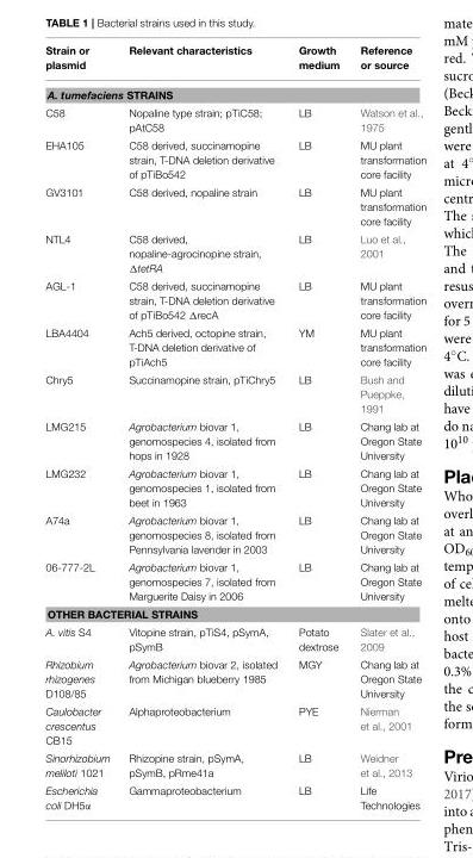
<table><thead><tr><td>Strain or plasmid</td><td>Relevant characteristics</td><td>Growth medium</td><td>Reference or source</td></tr></thead><tbody><tr><td colspan="4">A. tumefaciens STRAINS</td></tr><tr><td>C58</td><td>Nopaline type strain; pTiC58; pAtC58</td><td>LB</td><td>Watson et al., 1975</td></tr><tr><td>EHA105</td><td>C58 derived, succinamopine strain, T-DNA deletion derivative of pTiBo542</td><td>LB</td><td>MU plant transformation core facility</td></tr><tr><td>GV3101</td><td>C58 derived, nopaline strain</td><td>LB</td><td>MU plant transformation core facility</td></tr><tr><td>NTL4</td><td>C58 derived, nopaline-agrocinopine strain, ΔtetRA</td><td>LB</td><td>Luo et al., 2001</td></tr><tr><td>AGL-1</td><td>C58 derived, succinamopine strain, T-DNA deletion derivative of pTiBo542 ΔrecA</td><td>LB</td><td>MU plant transformation core facility</td></tr><tr><td>LBA4404</td><td>Ach5 derived, octopine strain, T-DNA deletion derivative of pTiAch5</td><td>YM</td><td>MU plant transformation core facility</td></tr><tr><td>Chry5</td><td>Succinamopine strain, pTiChry5</td><td>LB</td><td>Bush and Pueppke, 1991</td></tr><tr><td>LMG215</td><td>Agrobacterium biovar 1, genomospecies 4, isolated from hops in 1928</td><td>LB</td><td>Chang lab at Oregon State University</td></tr><tr><td>LMG232</td><td>Agrobacterium biovar 1, genomospecies 1, isolated from beet in 1963</td><td>LB</td><td>Chang lab at Oregon State University</td></tr><tr><td>A74a</td><td>Agrobacterium biovar 1, genomospecies 8, isolated from Pennsylvania lavender in 2003</td><td>LB</td><td>Chang lab at Oregon State University</td></tr><tr><td>06-777-2L</td><td>Agrobacterium biovar 1, genomospecies 7, isolated from Marguerite Daisy in 2006</td><td>LB</td><td>Chang lab at Oregon State University</td></tr><tr><td colspan="4">OTHER BACTERIAL STRAINS</td></tr><tr><td>A. vitis S4</td><td>Vitopine strain, pTiS4, pSymA, pSymB</td><td>Potato dextrose</td><td>Slater et al., 2009</td></tr><tr><td>Rhizobium rhizogenes D108/85</td><td>Agrobacterium biovar 2, isolated from Michigan blueberry 1985</td><td>MGY</td><td>Chang lab at Oregon State University</td></tr><tr><td>Caulobacter crescentus CB15</td><td>Alphaproteobacterium</td><td>PYE</td><td>Nierman et al., 2001</td></tr><tr><td>Sinorhizobium meliloti 1021</td><td>Rhizopine strain, pSymA, pSymB, pRme41a</td><td>LB</td><td>Weidner et al., 2013</td></tr><tr><td>Escherichia coli DH5α</td><td>Gammaproteobacterium</td><td>LB</td><td>Life Technologies</td></tr></tbody></table>